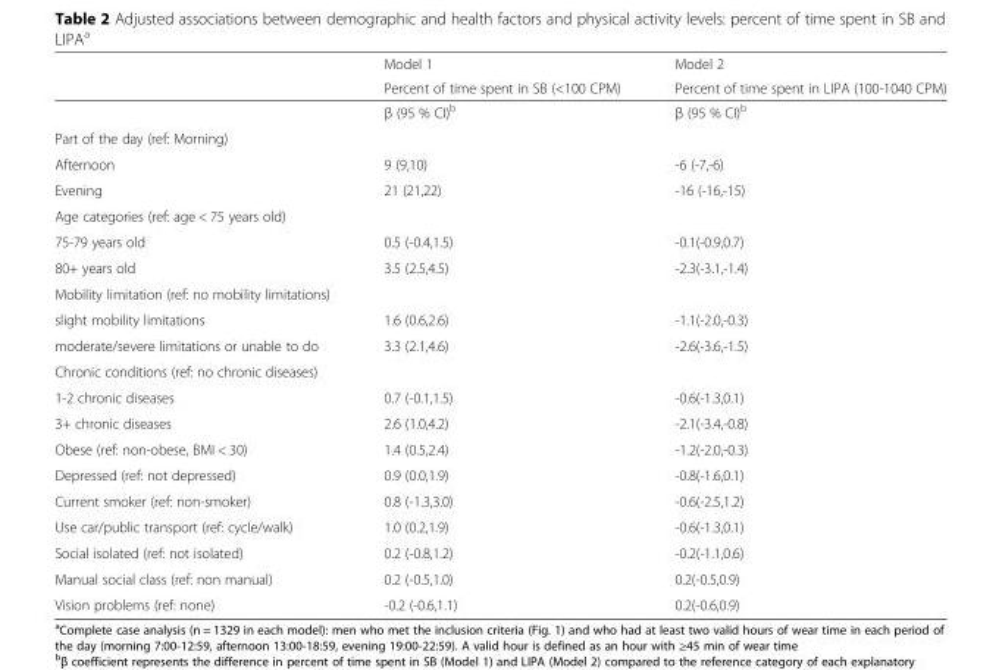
<table><thead><tr><td rowspan="2"></td><td rowspan="2">Model 1 Percent of time spent in SB (&lt;100 CPM)</td><td rowspan="2">Model 2 Percent of time spent in LIPA (100-1040 CPM)</td></tr><tr></tr></thead><tbody><tr><td></td><td>β (95 % CI)<sup>b</sup></td><td>β (95 % CI)<sup>b</sup></td></tr><tr><td colspan="3">Part of the day (ref: Morning)</td></tr><tr><td>Afternoon</td><td>9 (9,10)</td><td>-6 (-7,-6)</td></tr><tr><td>Evening</td><td>21 (21,22)</td><td>-16 (-16,-15)</td></tr><tr><td colspan="3">Age categories (ref: age &lt; 75 years old)</td></tr><tr><td>75-79 years old</td><td>0.5 (-0.4,1.5)</td><td>-0.1(-0.9,0.7)</td></tr><tr><td>80+ years old</td><td>3.5 (2.5,4.5)</td><td>-2.3(-3.1,-1.4)</td></tr><tr><td colspan="3">Mobility limitation (ref: no mobility limitations)</td></tr><tr><td>slight mobility limitations</td><td>1.6 (0.6,2.6)</td><td>-1.1(-2.0,-0.3)</td></tr><tr><td>moderate/severe limitations or unable to do</td><td>3.3 (2.1,4.6)</td><td>-2.6(-3.6,-1.5)</td></tr><tr><td colspan="3">Chronic conditions (ref: no chronic diseases)</td></tr><tr><td>1-2 chronic diseases</td><td>0.7 (-0.1,1.5)</td><td>-0.6(-1.3,0.1)</td></tr><tr><td>3+ chronic diseases</td><td>2.6 (1.0,4.2)</td><td>-2.1(-3.4,-0.8)</td></tr><tr><td>Obese (ref: non-obese, BMI &lt; 30)</td><td>1.4 (0.5,2.4)</td><td>-1.2(-2.0,-0.3)</td></tr><tr><td>Depressed (ref: not depressed)</td><td>0.9 (0.0,1.9)</td><td>-0.8(-1.6,0.1)</td></tr><tr><td>Current smoker (ref: non-smoker)</td><td>0.8 (-1.3,3.0)</td><td>-0.6(-2.5,1.2)</td></tr><tr><td>Use car/public transport (ref: cycle/walk)</td><td>1.0 (0.2,1.9)</td><td>-0.6(-1.3,0.1)</td></tr><tr><td>Social isolated (ref: not isolated)</td><td>0.2 (-0.8,1.2)</td><td>-0.2(-1.1,0.6)</td></tr><tr><td>Manual social class (ref: non manual)</td><td>0.2 (-0.5,1.0)</td><td>0.2(-0.5,0.9)</td></tr><tr><td>Vision problems (ref: none)</td><td>-0.2 (-0.6,1.1)</td><td>0.2(-0.6,0.9)</td></tr></tbody></table>